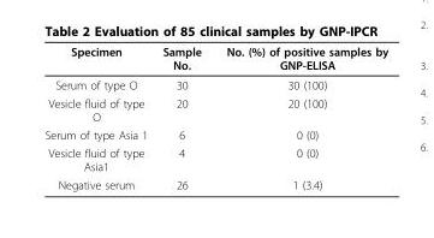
<table><thead><tr><td>Specimen</td><td>Sample No.</td><td>No. (%) of positive samples by GNP-ELISA</td></tr></thead><tbody><tr><td>Serum of type O</td><td>30</td><td>30 (100)</td></tr><tr><td>Vesicle fluid of type O</td><td>20</td><td>20 (100)</td></tr><tr><td>Serum of type Asia 1</td><td>6</td><td>0 (0)</td></tr><tr><td>Vesicle fluid of type Asia1</td><td>4</td><td>0 (0)</td></tr><tr><td>Negative serum</td><td>26</td><td>1 (3.4)</td></tr></tbody></table>